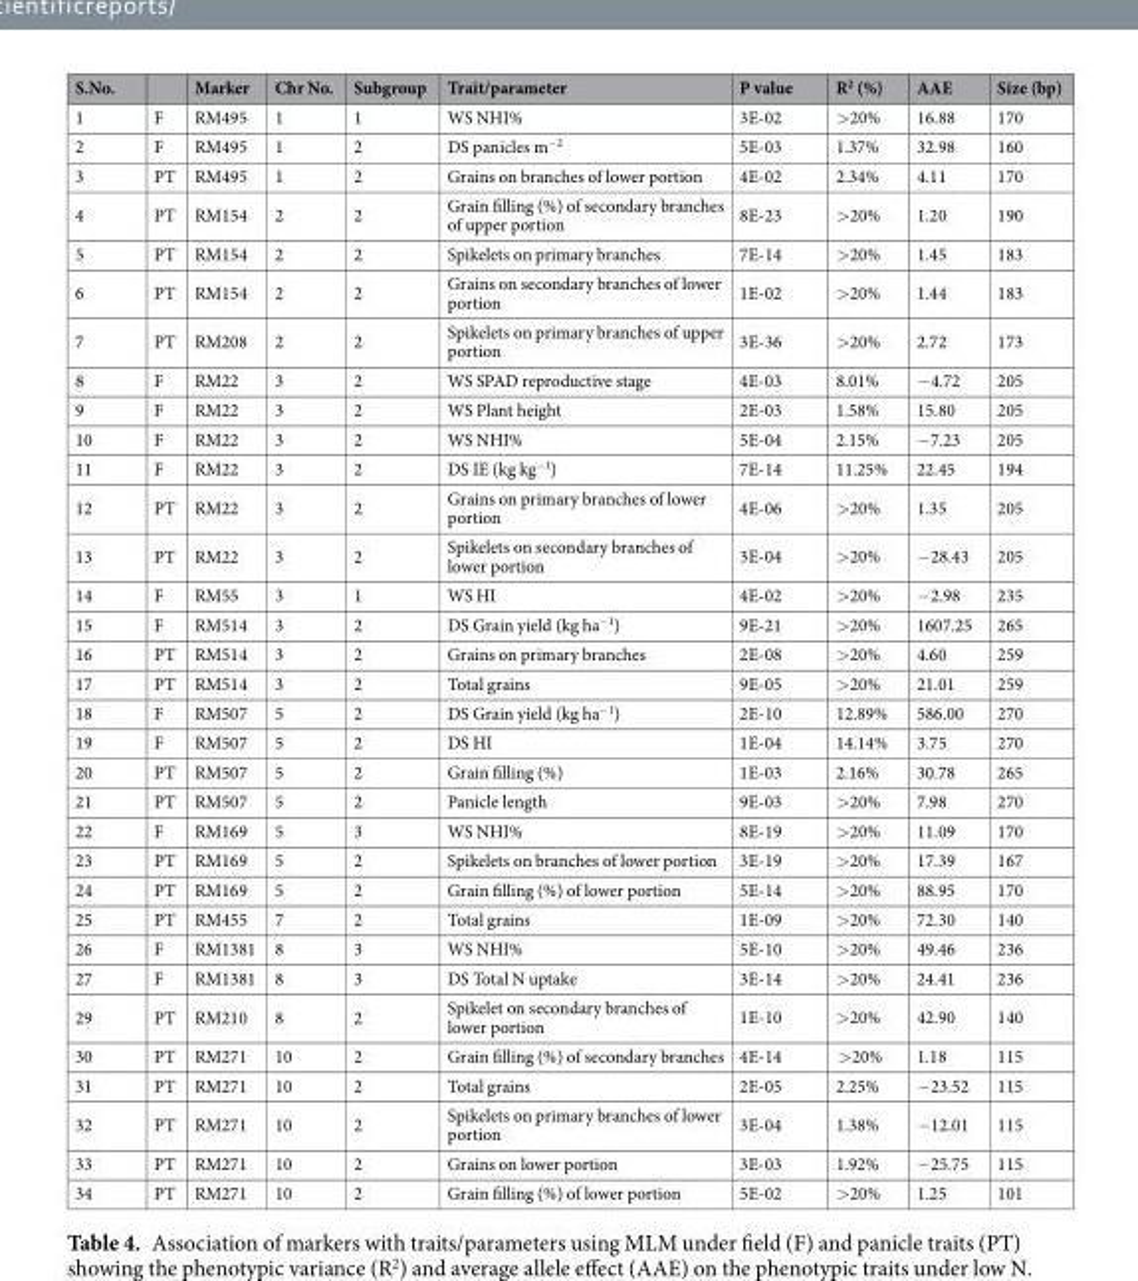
<table><thead><tr><td>S.No.</td><td></td><td>Marker</td><td>Chr No.</td><td>Subgroup</td><td>Trait/parameter</td><td>P value</td><td>R<sup>2</sup> (%)</td><td>AAE</td><td>Size (bp)</td></tr></thead><tbody><tr><td>1</td><td>F</td><td>RM495</td><td>1</td><td>1</td><td>WS NHI%</td><td>3E-02</td><td>&gt;20%</td><td>16.88</td><td>170</td></tr><tr><td>2</td><td>F</td><td>RM495</td><td>1</td><td>2</td><td>DS panicles m<sup>−2</sup></td><td>5E-03</td><td>1.37%</td><td>32.98</td><td>160</td></tr><tr><td>3</td><td>PT</td><td>RM495</td><td>1</td><td>2</td><td>Grains on branches of lower portion</td><td>4E-02</td><td>2.34%</td><td>4.11</td><td>170</td></tr><tr><td>4</td><td>PT</td><td>RM154</td><td>2</td><td>2</td><td>Grain filling (%) of secondary branches of upper portion</td><td>8E-23</td><td>&gt;20%</td><td>1.20</td><td>190</td></tr><tr><td>5</td><td>PT</td><td>RM154</td><td>2</td><td>2</td><td>Spikelets on primary branches</td><td>7E-14</td><td>&gt;20%</td><td>1.45</td><td>183</td></tr><tr><td>6</td><td>PT</td><td>RM154</td><td>2</td><td>2</td><td>Grains on secondary branches of lower portion</td><td>1E-02</td><td>&gt;20%</td><td>1.44</td><td>183</td></tr><tr><td>7</td><td>PT</td><td>RM208</td><td>2</td><td>2</td><td>Spikelets on primary branches of upper portion</td><td>3E-36</td><td>&gt;20%</td><td>2.72</td><td>173</td></tr><tr><td>8</td><td>F</td><td>RM22</td><td>3</td><td>2</td><td>WS SPAD reproductive stage</td><td>4E-03</td><td>8.01%</td><td>−4.72</td><td>205</td></tr><tr><td>9</td><td>F</td><td>RM22</td><td>3</td><td>2</td><td>WS Plant height</td><td>2E-03</td><td>1.58%</td><td>15.80</td><td>205</td></tr><tr><td>10</td><td>F</td><td>RM22</td><td>3</td><td>2</td><td>WS NHI%</td><td>5E-04</td><td>2.15%</td><td>−7.23</td><td>205</td></tr><tr><td>11</td><td>F</td><td>RM22</td><td>3</td><td>2</td><td>DS IE (kg kg<sup>−1</sup>)</td><td>7E-14</td><td>11.25%</td><td>22.45</td><td>194</td></tr><tr><td>12</td><td>PT</td><td>RM22</td><td>3</td><td>2</td><td>Grains on primary branches of lower portion</td><td>4E-06</td><td>&gt;20%</td><td>1.35</td><td>205</td></tr><tr><td>13</td><td>PT</td><td>RM22</td><td>3</td><td>2</td><td>Spikelets on secondary branches of lower portion</td><td>3E-04</td><td>&gt;20%</td><td>−28.43</td><td>205</td></tr><tr><td>14</td><td>F</td><td>RM55</td><td>3</td><td>1</td><td>WS HI</td><td>4E-02</td><td>&gt;20%</td><td>−2.98</td><td>235</td></tr><tr><td>15</td><td>F</td><td>RM514</td><td>3</td><td>2</td><td>DS Grain yield (kg ha<sup>−1</sup>)</td><td>9E-21</td><td>&gt;20%</td><td>1607.25</td><td>265</td></tr><tr><td>16</td><td>PT</td><td>RM514</td><td>3</td><td>2</td><td>Grains on primary branches</td><td>2E-08</td><td>&gt;20%</td><td>4.60</td><td>259</td></tr><tr><td>17</td><td>PT</td><td>RM514</td><td>3</td><td>2</td><td>Total grains</td><td>9E-05</td><td>&gt;20%</td><td>21.01</td><td>259</td></tr><tr><td>18</td><td>F</td><td>RM507</td><td>5</td><td>2</td><td>DS Grain yield (kg ha<sup>−1</sup>)</td><td>2E-10</td><td>12.89%</td><td>586.00</td><td>270</td></tr><tr><td>19</td><td>F</td><td>RM507</td><td>5</td><td>2</td><td>DS HI</td><td>1E-04</td><td>14.14%</td><td>3.75</td><td>270</td></tr><tr><td>20</td><td>PT</td><td>RM507</td><td>5</td><td>2</td><td>Grain filling (%)</td><td>1E-03</td><td>2.16%</td><td>30.78</td><td>265</td></tr><tr><td>21</td><td>PT</td><td>RM507</td><td>5</td><td>2</td><td>Panicle length</td><td>9E-03</td><td>&gt;20%</td><td>7.98</td><td>270</td></tr><tr><td>22</td><td>F</td><td>RM169</td><td>5</td><td>3</td><td>WS NHI%</td><td>8E-19</td><td>&gt;20%</td><td>11.09</td><td>170</td></tr><tr><td>23</td><td>PT</td><td>RM169</td><td>5</td><td>2</td><td>Spikelets on branches of lower portion</td><td>3E-19</td><td>&gt;20%</td><td>17.39</td><td>167</td></tr><tr><td>24</td><td>PT</td><td>RM169</td><td>5</td><td>2</td><td>Grain filling (%) of lower portion</td><td>5E-14</td><td>&gt;20%</td><td>88.95</td><td>170</td></tr><tr><td>25</td><td>PT</td><td>RM455</td><td>7</td><td>2</td><td>Total grains</td><td>1E-09</td><td>&gt;20%</td><td>72.30</td><td>140</td></tr><tr><td>26</td><td>F</td><td>RM1381</td><td>8</td><td>3</td><td>WS NHI%</td><td>5E-10</td><td>&gt;20%</td><td>49.46</td><td>236</td></tr><tr><td>27</td><td>F</td><td>RM1381</td><td>8</td><td>3</td><td>DS Total N uptake</td><td>3E-14</td><td>&gt;20%</td><td>24.41</td><td>236</td></tr><tr><td>29</td><td>PT</td><td>RM210</td><td>8</td><td>2</td><td>Spikelet on secondary branches of lower portion</td><td>1E-10</td><td>&gt;20%</td><td>42.90</td><td>140</td></tr><tr><td>30</td><td>PT</td><td>RM271</td><td>10</td><td>2</td><td>Grain filling (%) of secondary branches</td><td>4E-14</td><td>&gt;20%</td><td>1.18</td><td>115</td></tr><tr><td>31</td><td>PT</td><td>RM271</td><td>10</td><td>2</td><td>Total grains</td><td>2E-05</td><td>2.25%</td><td>−23.52</td><td>115</td></tr><tr><td>32</td><td>PT</td><td>RM271</td><td>10</td><td>2</td><td>Spikelets on primary branches of lower portion</td><td>3E-04</td><td>1.38%</td><td>−12.01</td><td>115</td></tr><tr><td>33</td><td>PT</td><td>RM271</td><td>10</td><td>2</td><td>Grains on lower portion</td><td>3E-03</td><td>1.92%</td><td>−25.75</td><td>115</td></tr><tr><td>34</td><td>PT</td><td>RM271</td><td>10</td><td>2</td><td>Grain filling (%) of lower portion</td><td>5E-02</td><td>&gt;20%</td><td>1.25</td><td>101</td></tr></tbody></table>